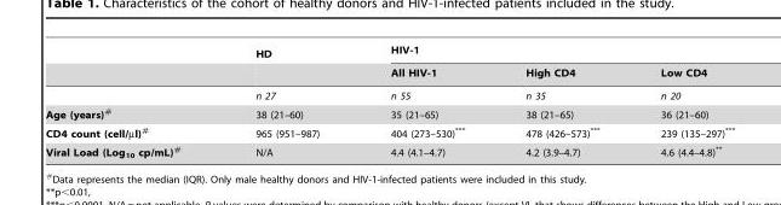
<table><thead><tr><td rowspan="2"></td><td rowspan="2">HD</td><td colspan="3">HIV-1</td></tr><tr><td>All HIV-1</td><td>High CD4</td><td>Low CD4</td></tr></thead><tbody><tr><td></td><td>n 27</td><td>n 55</td><td>n 35</td><td>n 20</td></tr><tr><td>Age (years)#</td><td>38 (21–60)</td><td>35 (21–65)</td><td>38 (21–65)</td><td>36 (21–60)</td></tr><tr><td>CD4 count (cell/µl)#</td><td>965 (951–987)</td><td>404 (273–530)***</td><td>478 (426–573)***</td><td>239 (135–297)***</td></tr><tr><td>Viral Load (Log<sub>10</sub> cp/mL)#</td><td>N/A</td><td>4.4 (4.1–4.7)</td><td>4.2 (3.9–4.7)</td><td>4.6 (4.4–4.8)**</td></tr></tbody></table>